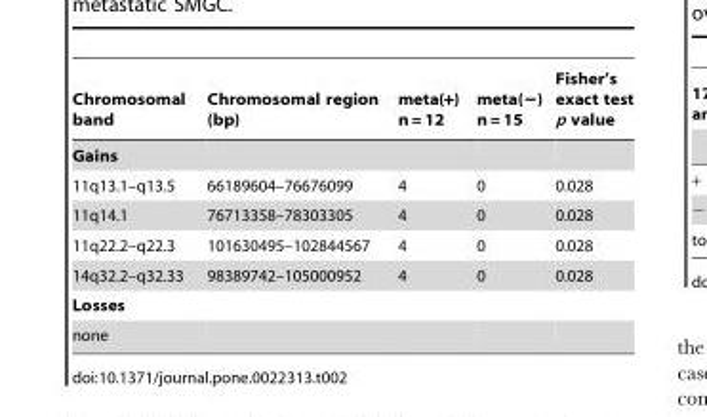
<table><thead><tr><td>Chromosomal band</td><td>Chromosomal region (bp)</td><td>meta(+) n = 12</td><td>meta(−) n = 15</td><td>Fisher’s exact test p value</td></tr></thead><tbody><tr><td colspan="5">Gains</td></tr><tr><td>11q13.1–q13.5</td><td>66189604–76676099</td><td>4</td><td>0</td><td>0.028</td></tr><tr><td>11q14.1</td><td>76713358–78303305</td><td>4</td><td>0</td><td>0.028</td></tr><tr><td>11q22.2–q22.3</td><td>101630495–102844567</td><td>4</td><td>0</td><td>0.028</td></tr><tr><td>14q32.2–q32.33</td><td>98389742–105000952</td><td>4</td><td>0</td><td>0.028</td></tr><tr><td colspan="5">Losses</td></tr><tr><td>none</td><td></td><td></td><td></td><td></td></tr></tbody></table>